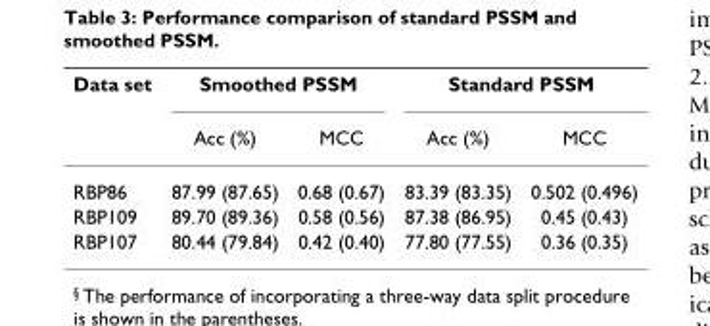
<table><thead><tr><td rowspan="2">Data set</td><td colspan="2">Smoothed PSSM</td><td colspan="2">Standard PSSM</td></tr><tr><td>Acc (%)</td><td>MCC</td><td>Acc (%)</td><td>MCC</td></tr></thead><tbody><tr><td>RBP86</td><td>87.99 (87.65)</td><td>0.68 (0.67)</td><td>83.39 (83.35)</td><td>0.502 (0.496)</td></tr><tr><td>RBP109</td><td>89.70 (89.36)</td><td>0.58 (0.56)</td><td>87.38 (86.95)</td><td>0.45 (0.43)</td></tr><tr><td>RBP107</td><td>80.44 (79.84)</td><td>0.42 (0.40)</td><td>77.80 (77.55)</td><td>0.36 (0.35)</td></tr></tbody></table>